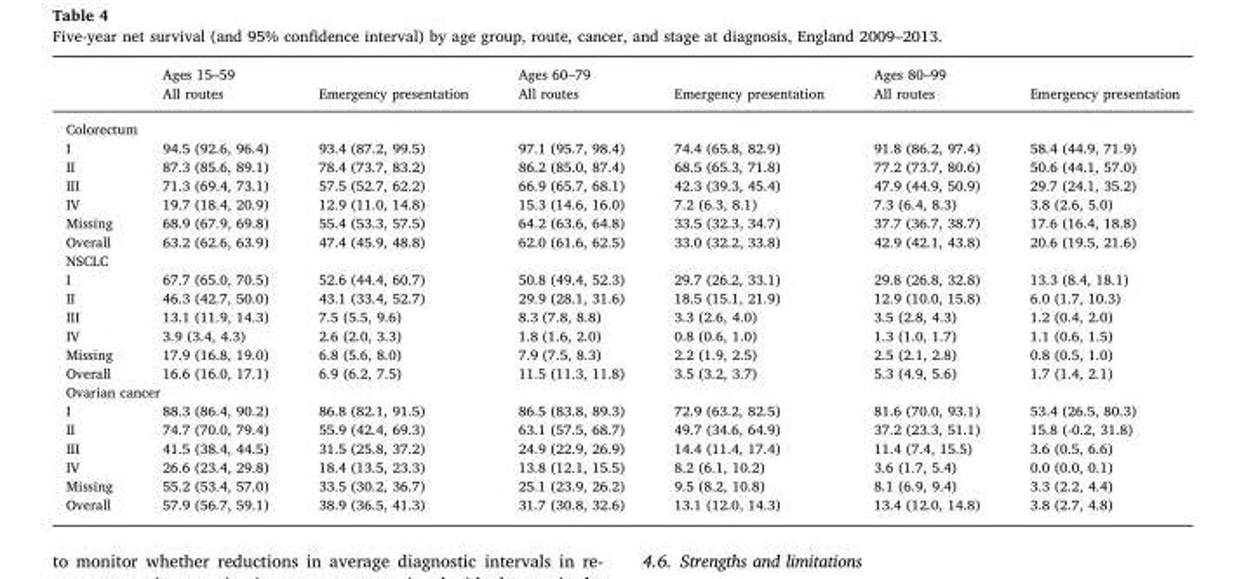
<table><thead><tr><td rowspan="2"></td><td rowspan="2">Ages 15–59 All routes</td><td rowspan="2">Emergency presentation</td><td rowspan="2">Ages 60–79 All routes</td><td rowspan="2">Emergency presentation</td><td rowspan="2">Ages 80–99 All routes</td><td rowspan="2">Emergency presentation</td></tr><tr></tr></thead><tbody><tr><td colspan="7">Colorectum</td></tr><tr><td>I</td><td>94.5 (92.6, 96.4)</td><td>93.4 (87.2, 99.5)</td><td>97.1 (95.7, 98.4)</td><td>74.4 (65.8, 82.9)</td><td>91.8 (86.2, 97.4)</td><td>58.4 (44.9, 71.9)</td></tr><tr><td>II</td><td>87.3 (85.6, 89.1)</td><td>78.4 (73.7, 83.2)</td><td>86.2 (85.0, 87.4)</td><td>68.5 (65.3, 71.8)</td><td>77.2 (73.7, 80.6)</td><td>50.6 (44.1, 57.0)</td></tr><tr><td>III</td><td>71.3 (69.4, 73.1)</td><td>57.5 (52.7, 62.2)</td><td>66.9 (65.7, 68.1)</td><td>42.3 (39.3, 45.4)</td><td>47.9 (44.9, 50.9)</td><td>29.7 (24.1, 35.2)</td></tr><tr><td>IV</td><td>19.7 (18.4, 20.9)</td><td>12.9 (11.0, 14.8)</td><td>15.3 (14.6, 16.0)</td><td>7.2 (6.3, 8.1)</td><td>7.3 (6.4, 8.3)</td><td>3.8 (2.6, 5.0)</td></tr><tr><td>Missing</td><td>68.9 (67.9, 69.8)</td><td>55.4 (53.3, 57.5)</td><td>64.2 (63.6, 64.8)</td><td>33.5 (32.3, 34.7)</td><td>37.7 (36.7, 38.7)</td><td>17.6 (16.4, 18.8)</td></tr><tr><td>Overall</td><td>63.2 (62.6, 63.9)</td><td>47.4 (45.9, 48.8)</td><td>62.0 (61.6, 62.5)</td><td>33.0 (32.2, 33.8)</td><td>42.9 (42.1, 43.8)</td><td>20.6 (19.5, 21.6)</td></tr><tr><td colspan="7">NSCLC</td></tr><tr><td>I</td><td>67.7 (65.0, 70.5)</td><td>52.6 (44.4, 60.7)</td><td>50.8 (49.4, 52.3)</td><td>29.7 (26.2, 33.1)</td><td>29.8 (26.8, 32.8)</td><td>13.3 (8.4, 18.1)</td></tr><tr><td>II</td><td>46.3 (42.7, 50.0)</td><td>43.1 (33.4, 52.7)</td><td>29.9 (28.1, 31.6)</td><td>18.5 (15.1, 21.9)</td><td>12.9 (10.0, 15.8)</td><td>6.0 (1.7, 10.3)</td></tr><tr><td>III</td><td>13.1 (11.9, 14.3)</td><td>7.5 (5.5, 9.6)</td><td>8.3 (7.8, 8.8)</td><td>3.3 (2.6, 4.0)</td><td>3.5 (2.8, 4.3)</td><td>1.2 (0.4, 2.0)</td></tr><tr><td>IV</td><td>3.9 (3.4, 4.3)</td><td>2.6 (2.0, 3.3)</td><td>1.8 (1.6, 2.0)</td><td>0.8 (0.6, 1.0)</td><td>1.3 (1.0, 1.7)</td><td>1.1 (0.6, 1.5)</td></tr><tr><td>Missing</td><td>17.9 (16.8, 19.0)</td><td>6.8 (5.6, 8.0)</td><td>7.9 (7.5, 8.3)</td><td>2.2 (1.9, 2.5)</td><td>2.5 (2.1, 2.8)</td><td>0.8 (0.5, 1.0)</td></tr><tr><td>Overall</td><td>16.6 (16.0, 17.1)</td><td>6.9 (6.2, 7.5)</td><td>11.5 (11.3, 11.8)</td><td>3.5 (3.2, 3.7)</td><td>5.3 (4.9, 5.6)</td><td>1.7 (1.4, 2.1)</td></tr><tr><td colspan="7">Ovarian cancer</td></tr><tr><td>I</td><td>88.3 (86.4, 90.2)</td><td>86.8 (82.1, 91.5)</td><td>86.5 (83.8, 89.3)</td><td>72.9 (63.2, 82.5)</td><td>81.6 (70.0, 93.1)</td><td>53.4 (26.5, 80.3)</td></tr><tr><td>II</td><td>74.7 (70.0, 79.4)</td><td>55.9 (42.4, 69.3)</td><td>63.1 (57.5, 68.7)</td><td>49.7 (34.6, 64.9)</td><td>37.2 (23.3, 51.1)</td><td>15.8 (-0.2, 31.8)</td></tr><tr><td>III</td><td>41.5 (38.4, 44.5)</td><td>31.5 (25.8, 37.2)</td><td>24.9 (22.9, 26.9)</td><td>14.4 (11.4, 17.4)</td><td>11.4 (7.4, 15.5)</td><td>3.6 (0.5, 6.6)</td></tr><tr><td>IV</td><td>26.6 (23.4, 29.8)</td><td>18.4 (13.5, 23.3)</td><td>13.8 (12.1, 15.5)</td><td>8.2 (6.1, 10.2)</td><td>3.6 (1.7, 5.4)</td><td>0.0 (0.0, 0.1)</td></tr><tr><td>Missing</td><td>55.2 (53.4, 57.0)</td><td>33.5 (30.2, 36.7)</td><td>25.1 (23.9, 26.2)</td><td>9.5 (8.2, 10.8)</td><td>8.1 (6.9, 9.4)</td><td>3.3 (2.2, 4.4)</td></tr><tr><td>Overall</td><td>57.9 (56.7, 59.1)</td><td>38.9 (36.5, 41.3)</td><td>31.7 (30.8, 32.6)</td><td>13.1 (12.0, 14.3)</td><td>13.4 (12.0, 14.8)</td><td>3.8 (2.7, 4.8)</td></tr></tbody></table>